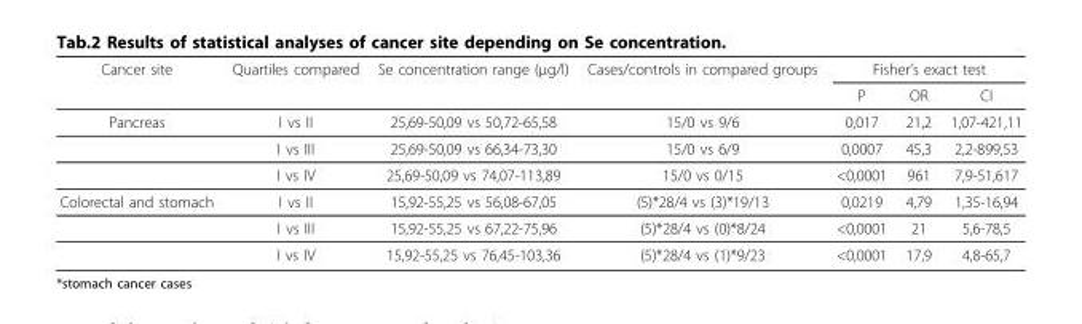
<table><thead><tr><td rowspan="2">Cancer site</td><td rowspan="2">Quartiles compared</td><td rowspan="2">Se concentration range (µg/l)</td><td rowspan="2">Cases/controls in compared groups</td><td colspan="3">Fisher’s exact test</td></tr><tr><td>P</td><td>OR</td><td>CI</td></tr></thead><tbody><tr><td rowspan="3">Pancreas</td><td>I vs II</td><td>25,69-50,09 vs 50,72-65,58</td><td>15/0 vs 9/6</td><td>0,017</td><td>21,2</td><td>1,07-421,11</td></tr><tr><td>I vs III</td><td>25,69-50,09 vs 66,34-73,30</td><td>15/0 vs 6/9</td><td>0,0007</td><td>45,3</td><td>2,2-899,53</td></tr><tr><td>I vs IV</td><td>25,69-50,09 vs 74,07-113,89</td><td>15/0 vs 0/15</td><td>&lt;0,0001</td><td>961</td><td>7,9-51,617</td></tr><tr><td rowspan="3">Colorectal and stomach</td><td>I vs II</td><td>15,92-55,25 vs 56,08-67,05</td><td>(5)*28/4 vs (3)*19/13</td><td>0,0219</td><td>4,79</td><td>1,35-16,94</td></tr><tr><td>I vs III</td><td>15,92-55,25 vs 67,22-75,96</td><td>(5)*28/4 vs (0)*8/24</td><td>&lt;0,0001</td><td>21</td><td>5,6-78,5</td></tr><tr><td>I vs IV</td><td>15,92-55,25 vs 76,45-103,36</td><td>(5)*28/4 vs (1)*9/23</td><td>&lt;0,0001</td><td>17,9</td><td>4,8-65,7</td></tr></tbody></table>